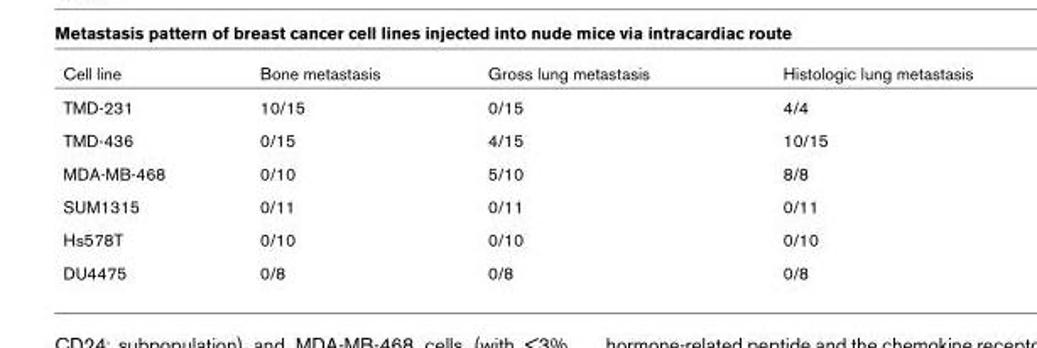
<table><thead><tr><td>Cell line</td><td>Bone metastasis</td><td>Gross lung metastasis</td><td>Histologic lung metastasis</td></tr></thead><tbody><tr><td>TMD-231</td><td>10/15</td><td>0/15</td><td>4/4</td></tr><tr><td>TMD-436</td><td>0/15</td><td>4/15</td><td>10/15</td></tr><tr><td>MDA-MB-468</td><td>0/10</td><td>5/10</td><td>8/8</td></tr><tr><td>SUM1315</td><td>0/11</td><td>0/11</td><td>0/11</td></tr><tr><td>Hs578T</td><td>0/10</td><td>0/10</td><td>0/10</td></tr><tr><td>DU4475</td><td>0/8</td><td>0/8</td><td>0/8</td></tr></tbody></table>